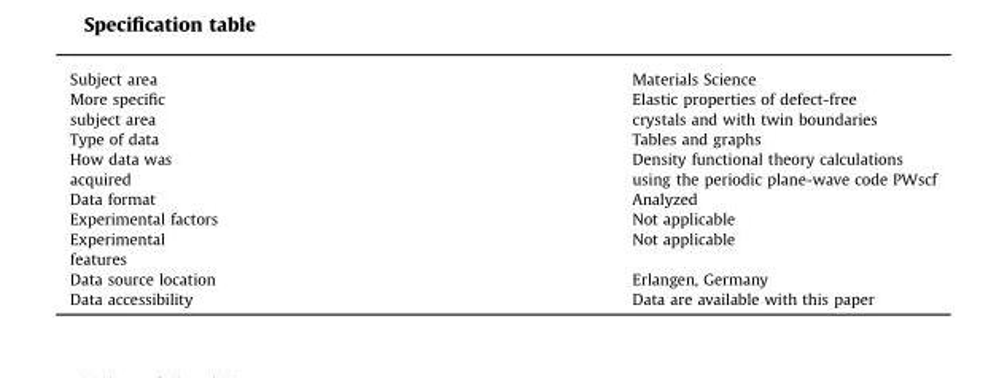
<table><tbody><tr><td>Subject area</td><td>Materials Science</td></tr><tr><td>More specific</td><td>Elastic properties of defect-free</td></tr><tr><td>subject area</td><td>crystals and with twin boundaries</td></tr><tr><td>Type of data</td><td>Tables and graphs</td></tr><tr><td>How data was</td><td>Density functional theory calculations</td></tr><tr><td>acquired</td><td>using the periodic plane-wave code PWscf</td></tr><tr><td>Data format</td><td>Analyzed</td></tr><tr><td>Experimental factors</td><td>Not applicable</td></tr><tr><td>Experimental</td><td>Not applicable</td></tr><tr><td colspan="2">features</td></tr><tr><td>Data source location</td><td>Erlangen, Germany</td></tr><tr><td>Data accessibility</td><td>Data are available with this paper</td></tr></tbody></table>